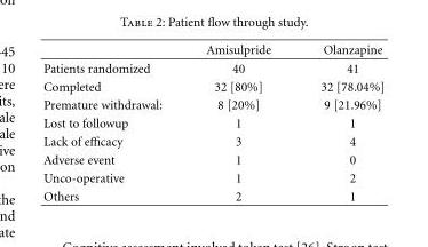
<table><thead><tr><td></td><td>Amisulpride</td><td>Olanzapine</td></tr></thead><tbody><tr><td>Patients randomized</td><td>40</td><td>41</td></tr><tr><td>Completed</td><td>32 [80%]</td><td>32 [78.04%]</td></tr><tr><td>Premature withdrawal:</td><td>8 [20%]</td><td>9 [21.96%]</td></tr><tr><td>Lost to followup</td><td>1</td><td>1</td></tr><tr><td>Lack of efficacy</td><td>3</td><td>4</td></tr><tr><td>Adverse event</td><td>1</td><td>0</td></tr><tr><td>Unco-operative</td><td>1</td><td>2</td></tr><tr><td>Others</td><td>2</td><td>1</td></tr></tbody></table>